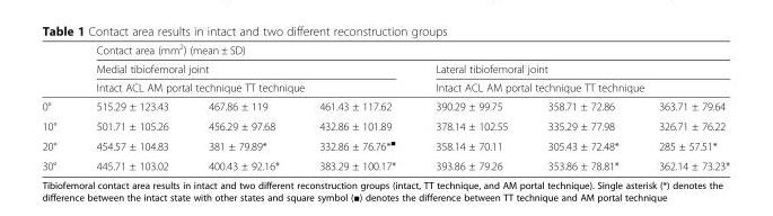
<table><thead><tr><td rowspan="4">0°</td><td colspan="6">Contact area (mm<sup>2</sup>) (mean ± SD)</td></tr><tr><td rowspan="2" colspan="3">Medial tibiofemoral joint Intact ACL AM portal technique TT technique</td><td rowspan="2" colspan="3">Lateral tibiofemoral joint Intact ACL AM portal technique TT technique</td></tr><tr></tr><tr><td>515.29 ± 123.43</td><td>467.86 ± 119</td><td>461.43 ± 117.62</td><td>390.29 ± 99.75</td><td>358.71 ± 72.86</td><td>363.71 ± 79.64</td></tr></thead><tbody><tr><td>10°</td><td>501.71 ± 105.26</td><td>456.29 ± 97.68</td><td>432.86 ± 101.89</td><td>378.14 ± 102.55</td><td>335.29 ± 77.98</td><td>326.71 ± 76.22</td></tr><tr><td>20°</td><td>454.57 ± 104.83</td><td>381 ± 79.89*</td><td>332.86 ± 76.76*<sup>■</sup></td><td>358.14 ± 70.11</td><td>305.43 ± 72.48*</td><td>285 ± 57.51*</td></tr><tr><td>30°</td><td>445.71 ± 103.02</td><td>400.43 ± 92.16*</td><td>383.29 ± 100.17*</td><td>393.86 ± 79.26</td><td>353.86 ± 78.81*</td><td>362.14 ± 73.23*</td></tr></tbody></table>